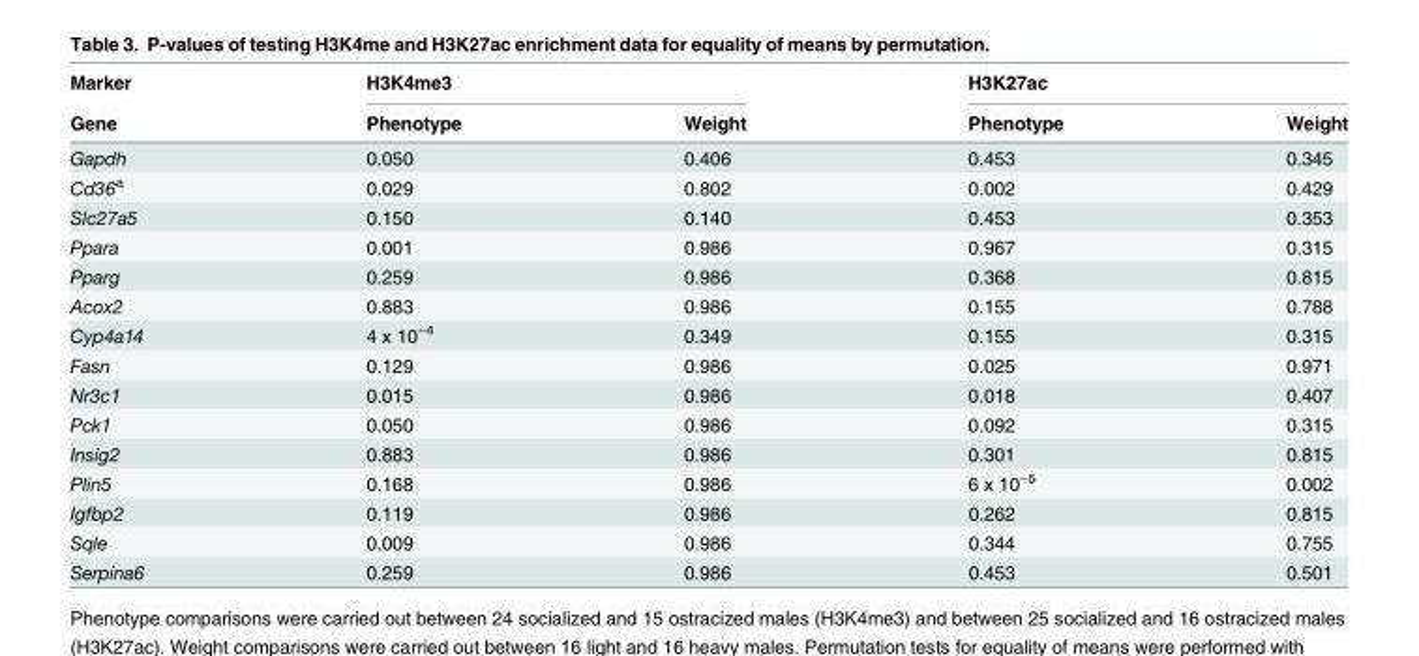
<table><thead><tr><td rowspan="2">Marker Gene</td><td colspan="2">H3K4me3</td><td colspan="2">H3K27ac</td></tr><tr><td>Phenotype</td><td>Weight</td><td>Phenotype</td><td>Weight</td></tr></thead><tbody><tr><td>Gapdh</td><td>0.050</td><td>0.406</td><td>0.453</td><td>0.345</td></tr><tr><td>Cd36<sup>a</sup></td><td>0.029</td><td>0.802</td><td>0.002</td><td>0.429</td></tr><tr><td>Slc27a5</td><td>0.150</td><td>0.140</td><td>0.453</td><td>0.353</td></tr><tr><td>Ppara</td><td>0.001</td><td>0.986</td><td>0.967</td><td>0.315</td></tr><tr><td>Pparg</td><td>0.259</td><td>0.986</td><td>0.368</td><td>0.815</td></tr><tr><td>Acox2</td><td>0.883</td><td>0.986</td><td>0.155</td><td>0.788</td></tr><tr><td>Cyp4a14</td><td>4 x 10<sup>−4</sup></td><td>0.349</td><td>0.155</td><td>0.315</td></tr><tr><td>Fasn</td><td>0.129</td><td>0.986</td><td>0.025</td><td>0.971</td></tr><tr><td>Nr3c1</td><td>0.015</td><td>0.986</td><td>0.018</td><td>0.407</td></tr><tr><td>Pck1</td><td>0.050</td><td>0.986</td><td>0.092</td><td>0.315</td></tr><tr><td>Insig2</td><td>0.883</td><td>0.986</td><td>0.301</td><td>0.815</td></tr><tr><td>Plin5</td><td>0.168</td><td>0.986</td><td>6 x 10<sup>−5</sup></td><td>0.002</td></tr><tr><td>Igfbp2</td><td>0.119</td><td>0.986</td><td>0.262</td><td>0.815</td></tr><tr><td>Sqle</td><td>0.009</td><td>0.986</td><td>0.344</td><td>0.755</td></tr><tr><td>Serpina6</td><td>0.259</td><td>0.986</td><td>0.453</td><td>0.501</td></tr></tbody></table>